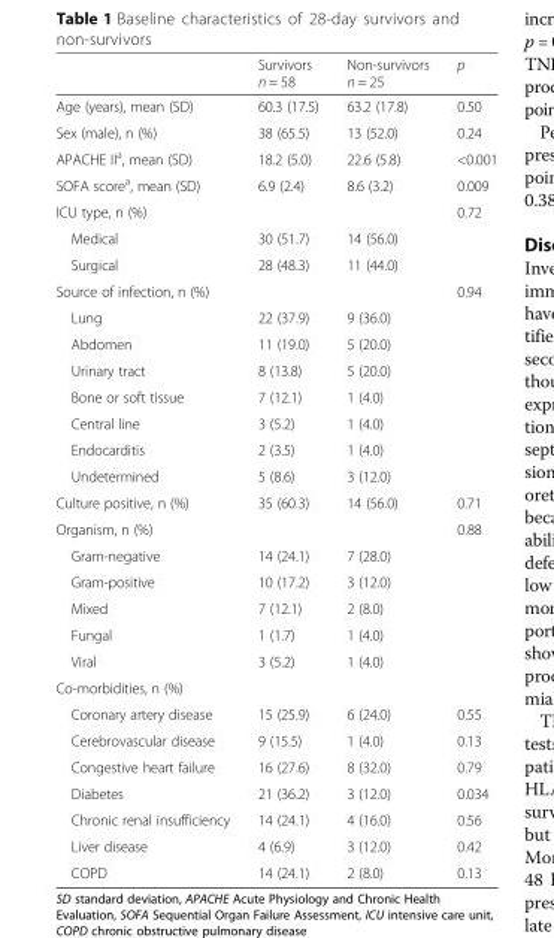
<table><thead><tr><td></td><td>Survivors n = 58</td><td>Non-survivors n = 25</td><td>p</td></tr></thead><tbody><tr><td>Age (years), mean (SD)</td><td>60.3 (17.5)</td><td>63.2 (17.8)</td><td>0.50</td></tr><tr><td>Sex (male), n (%)</td><td>38 (65.5)</td><td>13 (52.0)</td><td>0.24</td></tr><tr><td>APACHE II<sup>a</sup>, mean (SD)</td><td>18.2 (5.0)</td><td>22.6 (5.8)</td><td>&lt;0.001</td></tr><tr><td>SOFA score<sup>a</sup>, mean (SD)</td><td>6.9 (2.4)</td><td>8.6 (3.2)</td><td>0.009</td></tr><tr><td>ICU type, n (%)</td><td></td><td></td><td>0.72</td></tr><tr><td>Medical</td><td>30 (51.7)</td><td>14 (56.0)</td><td rowspan="2"></td></tr><tr><td>Surgical</td><td>28 (48.3)</td><td>11 (44.0)</td></tr><tr><td>Source of infection, n (%)</td><td></td><td></td><td>0.94</td></tr><tr><td>Lung</td><td>22 (37.9)</td><td>9 (36.0)</td><td rowspan="7"></td></tr><tr><td>Abdomen</td><td>11 (19.0)</td><td>5 (20.0)</td></tr><tr><td>Urinary tract</td><td>8 (13.8)</td><td>5 (20.0)</td></tr><tr><td>Bone or soft tissue</td><td>7 (12.1)</td><td>1 (4.0)</td></tr><tr><td>Central line</td><td>3 (5.2)</td><td>1 (4.0)</td></tr><tr><td>Endocarditis</td><td>2 (3.5)</td><td>1 (4.0)</td></tr><tr><td>Undetermined</td><td>5 (8.6)</td><td>3 (12.0)</td></tr><tr><td>Culture positive, n (%)</td><td>35 (60.3)</td><td>14 (56.0)</td><td>0.71</td></tr><tr><td>Organism, n (%)</td><td></td><td></td><td>0.88</td></tr><tr><td>Gram-negative</td><td>14 (24.1)</td><td>7 (28.0)</td><td rowspan="5"></td></tr><tr><td>Gram-positive</td><td>10 (17.2)</td><td>3 (12.0)</td></tr><tr><td>Mixed</td><td>7 (12.1)</td><td>2 (8.0)</td></tr><tr><td>Fungal</td><td>1 (1.7)</td><td>1 (4.0)</td></tr><tr><td>Viral</td><td>3 (5.2)</td><td>1 (4.0)</td></tr><tr><td colspan="4">Co-morbidities, n (%)</td></tr><tr><td>Coronary artery disease</td><td>15 (25.9)</td><td>6 (24.0)</td><td>0.55</td></tr><tr><td>Cerebrovascular disease</td><td>9 (15.5)</td><td>1 (4.0)</td><td>0.13</td></tr><tr><td>Congestive heart failure</td><td>16 (27.6)</td><td>8 (32.0)</td><td>0.79</td></tr><tr><td>Diabetes</td><td>21 (36.2)</td><td>3 (12.0)</td><td>0.034</td></tr><tr><td>Chronic renal insufficiency</td><td>14 (24.1)</td><td>4 (16.0)</td><td>0.56</td></tr><tr><td>Liver disease</td><td>4 (6.9)</td><td>3 (12.0)</td><td>0.42</td></tr><tr><td>COPD</td><td>14 (24.1)</td><td>2 (8.0)</td><td>0.13</td></tr></tbody></table>